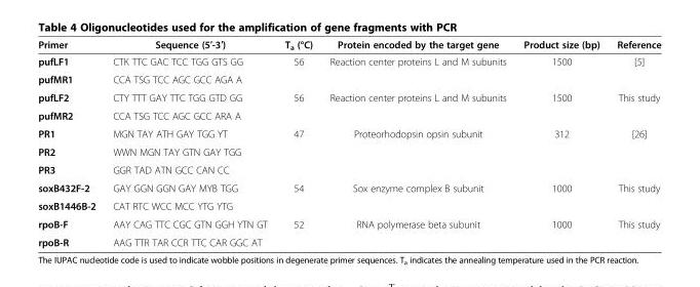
<table><thead><tr><td>Primer</td><td>Sequence (5′-3′)</td><td>T<sub>a</sub> (°C)</td><td>Protein encoded by the target gene</td><td>Product size (bp)</td><td>Reference</td></tr></thead><tbody><tr><td>pufLF1</td><td>CTK TTC GAC TCC TGG GTS GG</td><td rowspan="2">56</td><td rowspan="2">Reaction center proteins L and M subunits</td><td rowspan="2">1500</td><td rowspan="2">[5]</td></tr><tr><td>pufMR1</td><td>CCA TSG TCC AGC GCC AGA A</td></tr><tr><td>pufLF2</td><td>CTY TTT GAY TTC TGG GTD GG</td><td rowspan="2">56</td><td rowspan="2">Reaction center proteins L and M subunits</td><td rowspan="2">1500</td><td rowspan="2">This study</td></tr><tr><td>pufMR2</td><td>CCA TSG TCC AGC GCC ARA A</td></tr><tr><td>PR1</td><td>MGN TAY ATH GAY TGG YT</td><td rowspan="3">47</td><td rowspan="3">Proteorhodopsin opsin subunit</td><td rowspan="3">312</td><td rowspan="3">[26]</td></tr><tr><td>PR2</td><td>WWN MGN TAY GTN GAY TGG</td></tr><tr><td>PR3</td><td>GGR TAD ATN GCC CAN CC</td></tr><tr><td>soxB432F-2</td><td>GAY GGN GGN GAY MYB TGG</td><td rowspan="2">54</td><td rowspan="2">Sox enzyme complex B subunit</td><td rowspan="2">1000</td><td rowspan="2">This study</td></tr><tr><td>soxB1446B-2</td><td>CAT RTC WCC MCC YTG YTG</td></tr><tr><td>rpoB-F</td><td>AAY CAG TTC CGC GTN GGH YTN GT</td><td rowspan="2">52</td><td rowspan="2">RNA polymerase beta subunit</td><td rowspan="2">1000</td><td rowspan="2">This study</td></tr><tr><td>rpoB-R</td><td>AAG TTR TAR CCR TTC CAR GGC AT</td></tr></tbody></table>